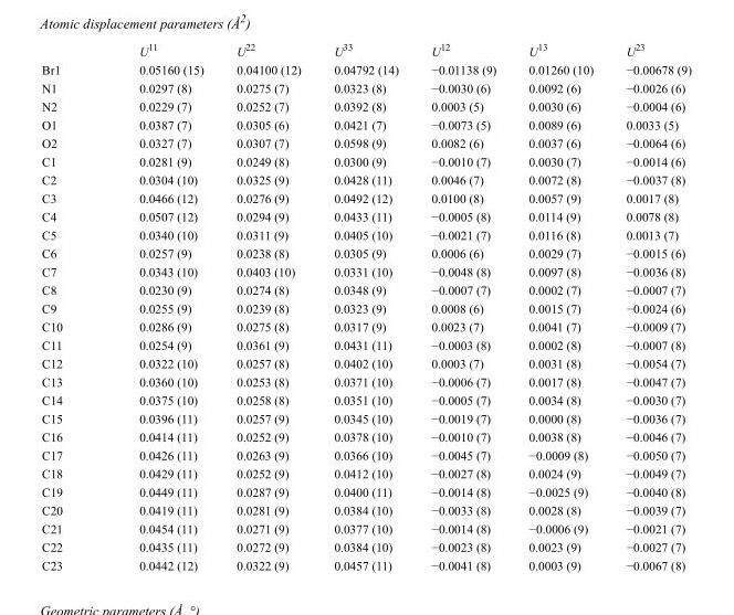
<table><thead><tr><td></td><td>U<sup>11</sup></td><td>U<sup>22</sup></td><td>U<sup>33</sup></td><td>U<sup>12</sup></td><td>U<sup>13</sup></td><td>U<sup>23</sup></td></tr></thead><tbody><tr><td>Br1</td><td>0.05160 (15)</td><td>0.04100 (12)</td><td>0.04792 (14)</td><td>−0.01138 (9)</td><td>0.01260 (10)</td><td>−0.00678 (9)</td></tr><tr><td>N1</td><td>0.0297 (8)</td><td>0.0275 (7)</td><td>0.0323 (8)</td><td>−0.0030 (6)</td><td>0.0092 (6)</td><td>−0.0026 (6)</td></tr><tr><td>N2</td><td>0.0229 (7)</td><td>0.0252 (7)</td><td>0.0392 (8)</td><td>0.0003 (5)</td><td>0.0030 (6)</td><td>−0.0004 (6)</td></tr><tr><td>O1</td><td>0.0387 (7)</td><td>0.0305 (6)</td><td>0.0421 (7)</td><td>−0.0073 (5)</td><td>0.0089 (6)</td><td>0.0033 (5)</td></tr><tr><td>O2</td><td>0.0327 (7)</td><td>0.0307 (7)</td><td>0.0598 (9)</td><td>0.0082 (6)</td><td>0.0037 (6)</td><td>−0.0064 (6)</td></tr><tr><td>C1</td><td>0.0281 (9)</td><td>0.0249 (8)</td><td>0.0300 (9)</td><td>−0.0010 (7)</td><td>0.0030 (7)</td><td>−0.0014 (6)</td></tr><tr><td>C2</td><td>0.0304 (10)</td><td>0.0325 (9)</td><td>0.0428 (11)</td><td>0.0046 (7)</td><td>0.0072 (8)</td><td>−0.0037 (8)</td></tr><tr><td>C3</td><td>0.0466 (12)</td><td>0.0276 (9)</td><td>0.0492 (12)</td><td>0.0100 (8)</td><td>0.0057 (9)</td><td>0.0017 (8)</td></tr><tr><td>C4</td><td>0.0507 (12)</td><td>0.0294 (9)</td><td>0.0433 (11)</td><td>−0.0005 (8)</td><td>0.0114 (9)</td><td>0.0078 (8)</td></tr><tr><td>C5</td><td>0.0340 (10)</td><td>0.0311 (9)</td><td>0.0405 (10)</td><td>−0.0021 (7)</td><td>0.0116 (8)</td><td>0.0013 (7)</td></tr><tr><td>C6</td><td>0.0257 (9)</td><td>0.0238 (8)</td><td>0.0305 (9)</td><td>0.0006 (6)</td><td>0.0029 (7)</td><td>−0.0015 (6)</td></tr><tr><td>C7</td><td>0.0343 (10)</td><td>0.0403 (10)</td><td>0.0331 (10)</td><td>−0.0048 (8)</td><td>0.0097 (8)</td><td>−0.0036 (8)</td></tr><tr><td>C8</td><td>0.0230 (9)</td><td>0.0274 (8)</td><td>0.0348 (9)</td><td>−0.0007 (7)</td><td>0.0002 (7)</td><td>−0.0007 (7)</td></tr><tr><td>C9</td><td>0.0255 (9)</td><td>0.0239 (8)</td><td>0.0323 (9)</td><td>0.0008 (6)</td><td>0.0015 (7)</td><td>−0.0024 (6)</td></tr><tr><td>C10</td><td>0.0286 (9)</td><td>0.0275 (8)</td><td>0.0317 (9)</td><td>0.0023 (7)</td><td>0.0041 (7)</td><td>−0.0009 (7)</td></tr><tr><td>C11</td><td>0.0254 (9)</td><td>0.0361 (9)</td><td>0.0431 (11)</td><td>−0.0003 (8)</td><td>0.0002 (8)</td><td>−0.0007 (8)</td></tr><tr><td>C12</td><td>0.0322 (10)</td><td>0.0257 (8)</td><td>0.0402 (10)</td><td>0.0003 (7)</td><td>0.0031 (8)</td><td>−0.0054 (7)</td></tr><tr><td>C13</td><td>0.0360 (10)</td><td>0.0253 (8)</td><td>0.0371 (10)</td><td>−0.0006 (7)</td><td>0.0017 (8)</td><td>−0.0047 (7)</td></tr><tr><td>C14</td><td>0.0375 (10)</td><td>0.0258 (8)</td><td>0.0351 (10)</td><td>−0.0005 (7)</td><td>0.0034 (8)</td><td>−0.0030 (7)</td></tr><tr><td>C15</td><td>0.0396 (11)</td><td>0.0257 (9)</td><td>0.0345 (10)</td><td>−0.0019 (7)</td><td>0.0000 (8)</td><td>−0.0036 (7)</td></tr><tr><td>C16</td><td>0.0414 (11)</td><td>0.0252 (9)</td><td>0.0378 (10)</td><td>−0.0010 (7)</td><td>0.0038 (8)</td><td>−0.0046 (7)</td></tr><tr><td>C17</td><td>0.0426 (11)</td><td>0.0263 (9)</td><td>0.0366 (10)</td><td>−0.0045 (7)</td><td>−0.0009 (8)</td><td>−0.0050 (7)</td></tr><tr><td>C18</td><td>0.0429 (11)</td><td>0.0252 (9)</td><td>0.0412 (10)</td><td>−0.0027 (8)</td><td>0.0024 (9)</td><td>−0.0049 (7)</td></tr><tr><td>C19</td><td>0.0449 (11)</td><td>0.0287 (9)</td><td>0.0400 (11)</td><td>−0.0014 (8)</td><td>−0.0025 (9)</td><td>−0.0040 (8)</td></tr><tr><td>C20</td><td>0.0419 (11)</td><td>0.0281 (9)</td><td>0.0384 (10)</td><td>−0.0033 (8)</td><td>0.0028 (8)</td><td>−0.0039 (7)</td></tr><tr><td>C21</td><td>0.0454 (11)</td><td>0.0271 (9)</td><td>0.0377 (10)</td><td>−0.0014 (8)</td><td>−0.0006 (9)</td><td>−0.0021 (7)</td></tr><tr><td>C22</td><td>0.0435 (11)</td><td>0.0272 (9)</td><td>0.0384 (10)</td><td>−0.0023 (8)</td><td>0.0023 (9)</td><td>−0.0027 (7)</td></tr><tr><td>C23</td><td>0.0442 (12)</td><td>0.0322 (9)</td><td>0.0457 (11)</td><td>−0.0041 (8)</td><td>0.0003 (9)</td><td>−0.0067 (8)</td></tr></tbody></table>